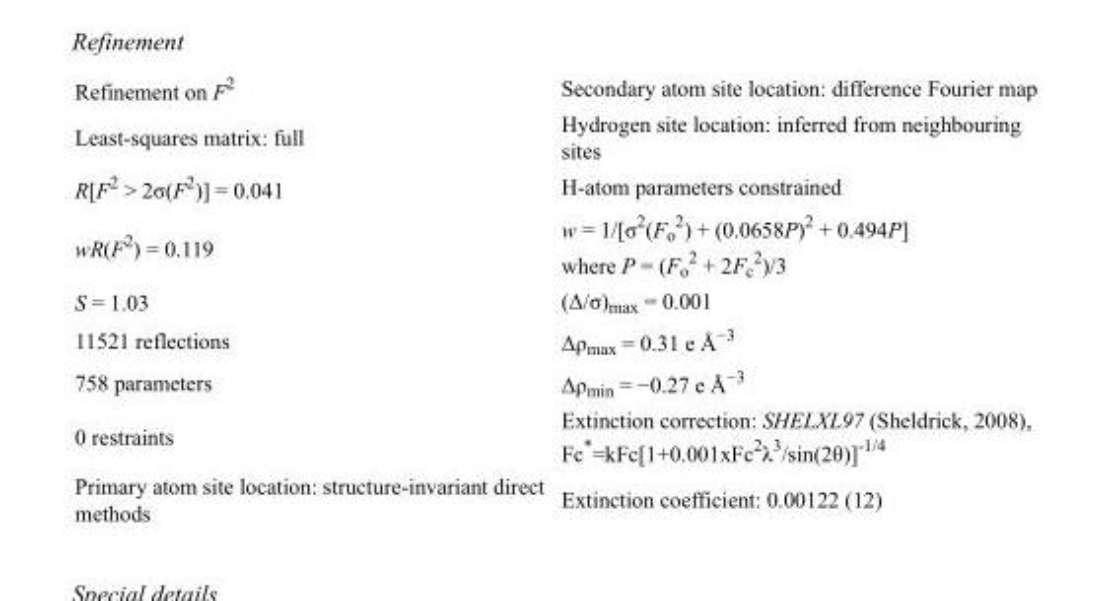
<table><tbody><tr><td>Refinement on F<sup>2</sup></td><td>Secondary atom site location: difference Fourier map</td></tr><tr><td>Least-squares matrix: full</td><td>Hydrogen site location: inferred from neighbouring sites</td></tr><tr><td>R[F<sup>2</sup> &gt; 2σ(F<sup>2</sup>)] = 0.041</td><td>H-atom parameters constrained</td></tr><tr><td>wR(F<sup>2</sup>) = 0.119</td><td>w = 1/[σ<sup>2</sup>(F<sub>o</sub> <sup>2</sup>) + (0.0658P)<sup>2</sup> + 0.494P] where P = (F<sub>o</sub> <sup>2</sup> + 2F<sub>c</sub> <sup>2</sup>)/3</td></tr><tr><td>S = 1.03</td><td>(Δ/σ)<sub>max</sub> = 0.001</td></tr><tr><td>11521 reflections</td><td>Δρ<sub>max</sub> = 0.31 e Å<sup>−3</sup></td></tr><tr><td>758 parameters</td><td>Δρ<sub>min</sub> = −0.27 e Å<sup>−3</sup></td></tr><tr><td>0 restraints</td><td>Extinction correction: SHELXL97 (Sheldrick, 2008), Fc*=kFc[1+0.001xFc<sup>2</sup>λ<sup>3</sup>/sin(2θ)]<sup>-1/4</sup></td></tr><tr><td>Primary atom site location: structure-invariant direct methods</td><td>Extinction coefficient: 0.00122 (12)</td></tr></tbody></table>